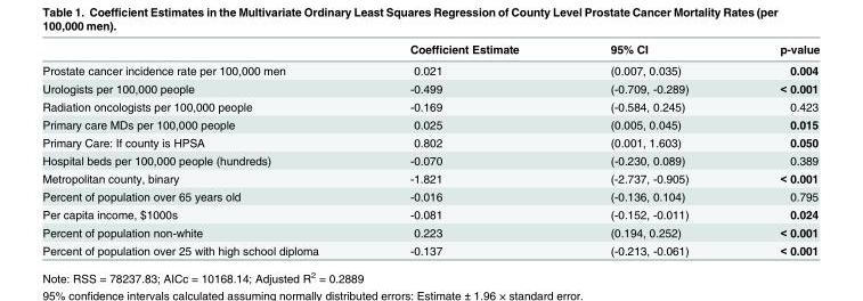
<table><thead><tr><td></td><td>Coefficient Estimate</td><td>95% CI</td><td>p-value</td></tr></thead><tbody><tr><td>Prostate cancer incidence rate per 100,000 men</td><td>0.021</td><td>(0.007, 0.035)</td><td>0.004</td></tr><tr><td>Urologists per 100,000 people</td><td>-0.499</td><td>(-0.709, -0.289)</td><td>&lt; 0.001</td></tr><tr><td>Radiation oncologists per 100,000 people</td><td>-0.169</td><td>(-0.584, 0.245)</td><td>0.423</td></tr><tr><td>Primary care MDs per 100,000 people</td><td>0.025</td><td>(0.005, 0.045)</td><td>0.015</td></tr><tr><td>Primary Care: If county is HPSA</td><td>0.802</td><td>(0.001, 1.603)</td><td>0.050</td></tr><tr><td>Hospital beds per 100,000 people (hundreds)</td><td>-0.070</td><td>(-0.230, 0.089)</td><td>0.389</td></tr><tr><td>Metropolitan county, binary</td><td>-1.821</td><td>(-2.737, -0.905)</td><td>&lt; 0.001</td></tr><tr><td>Percent of population over 65 years old</td><td>-0.016</td><td>(-0.136, 0.104)</td><td>0.795</td></tr><tr><td>Per capita income, $1000s</td><td>-0.081</td><td>(-0.152, -0.011)</td><td>0.024</td></tr><tr><td>Percent of population non-white</td><td>0.223</td><td>(0.194, 0.252)</td><td>&lt; 0.001</td></tr><tr><td>Percent of population over 25 with high school diploma</td><td>-0.137</td><td>(-0.213, -0.061)</td><td>&lt; 0.001</td></tr></tbody></table>